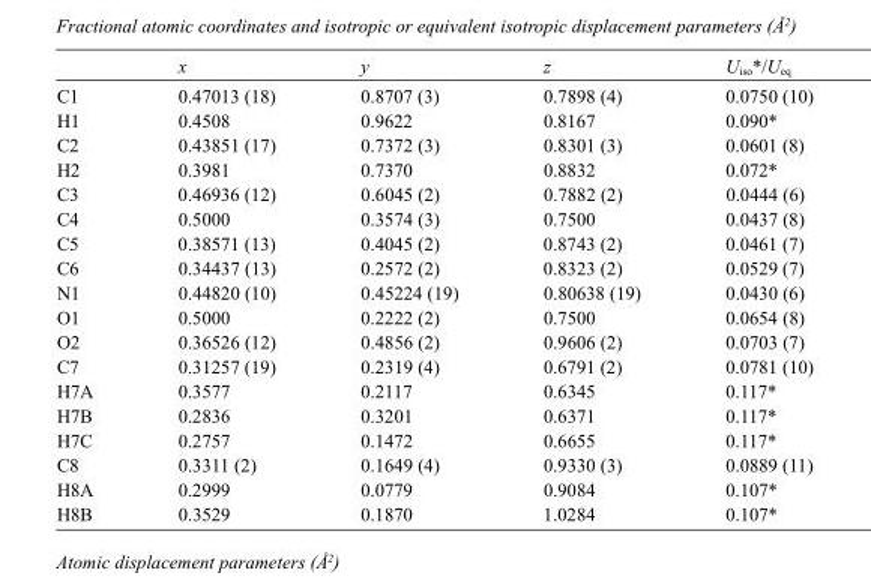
<table><thead><tr><td></td><td>x</td><td>y</td><td>z</td><td>U<sub>iso</sub>*/U<sub>eq</sub></td></tr></thead><tbody><tr><td>C1</td><td>0.47013 (18)</td><td>0.8707 (3)</td><td>0.7898 (4)</td><td>0.0750 (10)</td></tr><tr><td>H1</td><td>0.4508</td><td>0.9622</td><td>0.8167</td><td>0.090*</td></tr><tr><td>C2</td><td>0.43851 (17)</td><td>0.7372 (3)</td><td>0.8301 (3)</td><td>0.0601 (8)</td></tr><tr><td>H2</td><td>0.3981</td><td>0.7370</td><td>0.8832</td><td>0.072*</td></tr><tr><td>C3</td><td>0.46936 (12)</td><td>0.6045 (2)</td><td>0.7882 (2)</td><td>0.0444 (6)</td></tr><tr><td>C4</td><td>0.5000</td><td>0.3574 (3)</td><td>0.7500</td><td>0.0437 (8)</td></tr><tr><td>C5</td><td>0.38571 (13)</td><td>0.4045 (2)</td><td>0.8743 (2)</td><td>0.0461 (7)</td></tr><tr><td>C6</td><td>0.34437 (13)</td><td>0.2572 (2)</td><td>0.8323 (2)</td><td>0.0529 (7)</td></tr><tr><td>N1</td><td>0.44820 (10)</td><td>0.45224 (19)</td><td>0.80638 (19)</td><td>0.0430 (6)</td></tr><tr><td>O1</td><td>0.5000</td><td>0.2222 (2)</td><td>0.7500</td><td>0.0654 (8)</td></tr><tr><td>O2</td><td>0.36526 (12)</td><td>0.4856 (2)</td><td>0.9606 (2)</td><td>0.0703 (7)</td></tr><tr><td>C7</td><td>0.31257 (19)</td><td>0.2319 (4)</td><td>0.6791 (2)</td><td>0.0781 (10)</td></tr><tr><td>H7A</td><td>0.3577</td><td>0.2117</td><td>0.6345</td><td>0.117*</td></tr><tr><td>H7B</td><td>0.2836</td><td>0.3201</td><td>0.6371</td><td>0.117*</td></tr><tr><td>H7C</td><td>0.2757</td><td>0.1472</td><td>0.6655</td><td>0.117*</td></tr><tr><td>C8</td><td>0.3311 (2)</td><td>0.1649 (4)</td><td>0.9330 (3)</td><td>0.0889 (11)</td></tr><tr><td>H8A</td><td>0.2999</td><td>0.0779</td><td>0.9084</td><td>0.107*</td></tr><tr><td>H8B</td><td>0.3529</td><td>0.1870</td><td>1.0284</td><td>0.107*</td></tr></tbody></table>